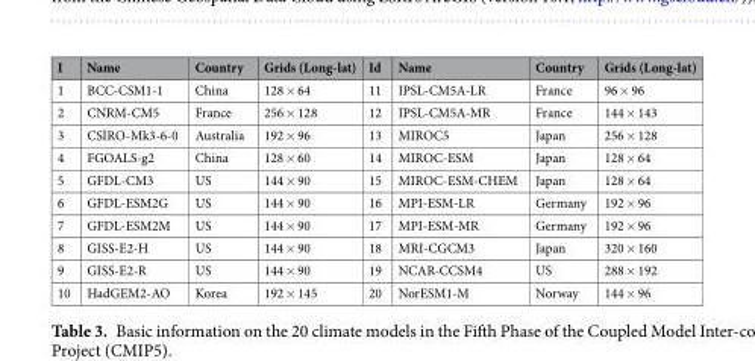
<table><thead><tr><td>I</td><td>Name</td><td>Country</td><td>Grids (Long-lat)</td><td>Id</td><td>Name</td><td>Country</td><td>Grids (Long-lat)</td></tr></thead><tbody><tr><td>1</td><td>BCC-CSM1-1</td><td>China</td><td>128 × 64</td><td>11</td><td>IPSL-CM5A-LR</td><td>France</td><td>96 × 96</td></tr><tr><td>2</td><td>CNRM-CM5</td><td>France</td><td>256 × 128</td><td>12</td><td>IPSL-CM5A-MR</td><td>France</td><td>144 × 143</td></tr><tr><td>3</td><td>CSIRO-Mk3-6-0</td><td>Australia</td><td>192 × 96</td><td>13</td><td>MIROC5</td><td>Japan</td><td>256 × 128</td></tr><tr><td>4</td><td>FGOALS-g2</td><td>China</td><td>128 × 60</td><td>14</td><td>MIROC-ESM</td><td>Japan</td><td>128 × 64</td></tr><tr><td>5</td><td>GFDL-CM3</td><td>US</td><td>144 × 90</td><td>15</td><td>MIROC-ESM-CHEM</td><td>Japan</td><td>128 × 64</td></tr><tr><td>6</td><td>GFDL-ESM2G</td><td>US</td><td>144 × 90</td><td>16</td><td>MPI-ESM-LR</td><td>Germany</td><td>192 × 96</td></tr><tr><td>7</td><td>GFDL-ESM2M</td><td>US</td><td>144 × 90</td><td>17</td><td>MPI-ESM-MR</td><td>Germany</td><td>192 × 96</td></tr><tr><td>8</td><td>GISS-E2-H</td><td>US</td><td>144 × 90</td><td>18</td><td>MRI-CGCM3</td><td>Japan</td><td>320 × 160</td></tr><tr><td>9</td><td>GISS-E2-R</td><td>US</td><td>144 × 90</td><td>19</td><td>NCAR-CCSM4</td><td>US</td><td>288 × 192</td></tr><tr><td>10</td><td>HadGEM2-AO</td><td>Korea</td><td>192 × 145</td><td>20</td><td>NorESM1-M</td><td>Norway</td><td>144 × 96</td></tr></tbody></table>